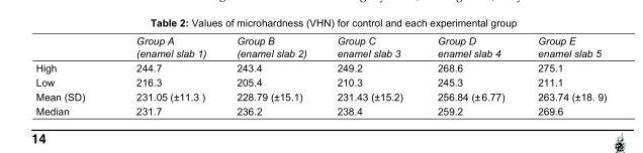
<table><thead><tr><td></td><td>Group A (enamel slab 1)</td><td>Group B (enamel slab 2)</td><td>Group C enamel slab 3</td><td>Group D enamel slab 4</td><td>Group E enamel slab 5</td></tr></thead><tbody><tr><td>High</td><td>244.7</td><td>243.4</td><td>249.2</td><td>268.6</td><td>275.1</td></tr><tr><td>Low</td><td>216.3</td><td>205.4</td><td>210.3</td><td>245.3</td><td>211.1</td></tr><tr><td>Mean (SD)</td><td>231.05 (±11.3 )</td><td>228.79 (±15.1)</td><td>231.43 (±15.2)</td><td>256.84 (± 6.77)</td><td>263.74 (±18. 9)</td></tr><tr><td>Median</td><td>231.7</td><td>236.2</td><td>238.4</td><td>259.2</td><td>269.6</td></tr></tbody></table>